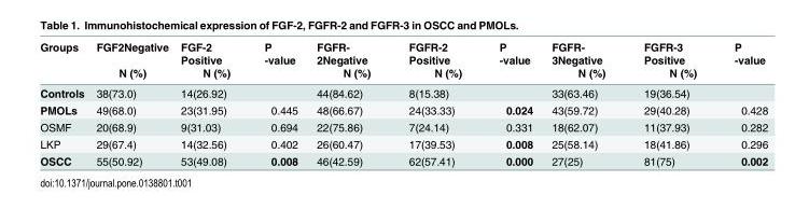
<table><thead><tr><td rowspan="2">Groups</td><td rowspan="2">FGF2Negative N (%)</td><td rowspan="2">FGF-2 Positive N (%)</td><td rowspan="2">P -value</td><td rowspan="2">FGFR- 2Negative N (%)</td><td rowspan="2">FGFR-2 Positive N (%)</td><td rowspan="2">P -value</td><td rowspan="2">FGFR- 3Negative N (%)</td><td rowspan="2">FGFR-3 Positive N (%)</td><td rowspan="2">P -value</td></tr><tr></tr></thead><tbody><tr><td>Controls</td><td>38(73.0)</td><td>14(26.92)</td><td></td><td>44(84.62)</td><td>8(15.38)</td><td></td><td>33(63.46)</td><td>19(36.54)</td><td></td></tr><tr><td>PMOLs</td><td>49(68.0)</td><td>23(31.95)</td><td>0.445</td><td>48(66.67)</td><td>24(33.33)</td><td>0.024</td><td>43(59.72)</td><td>29(40.28)</td><td>0.428</td></tr><tr><td>OSMF</td><td>20(68.9)</td><td>9(31.03)</td><td>0.694</td><td>22(75.86)</td><td>7(24.14)</td><td>0.331</td><td>18(62.07)</td><td>11(37.93)</td><td>0.282</td></tr><tr><td>LKP</td><td>29(67.4)</td><td>14(32.56)</td><td>0.402</td><td>26(60.47)</td><td>17(39.53)</td><td>0.008</td><td>25(58.14)</td><td>18(41.86)</td><td>0.296</td></tr><tr><td>OSCC</td><td>55(50.92)</td><td>53(49.08)</td><td>0.008</td><td>46(42.59)</td><td>62(57.41)</td><td>0.000</td><td>27(25)</td><td>81(75)</td><td>0.002</td></tr></tbody></table>